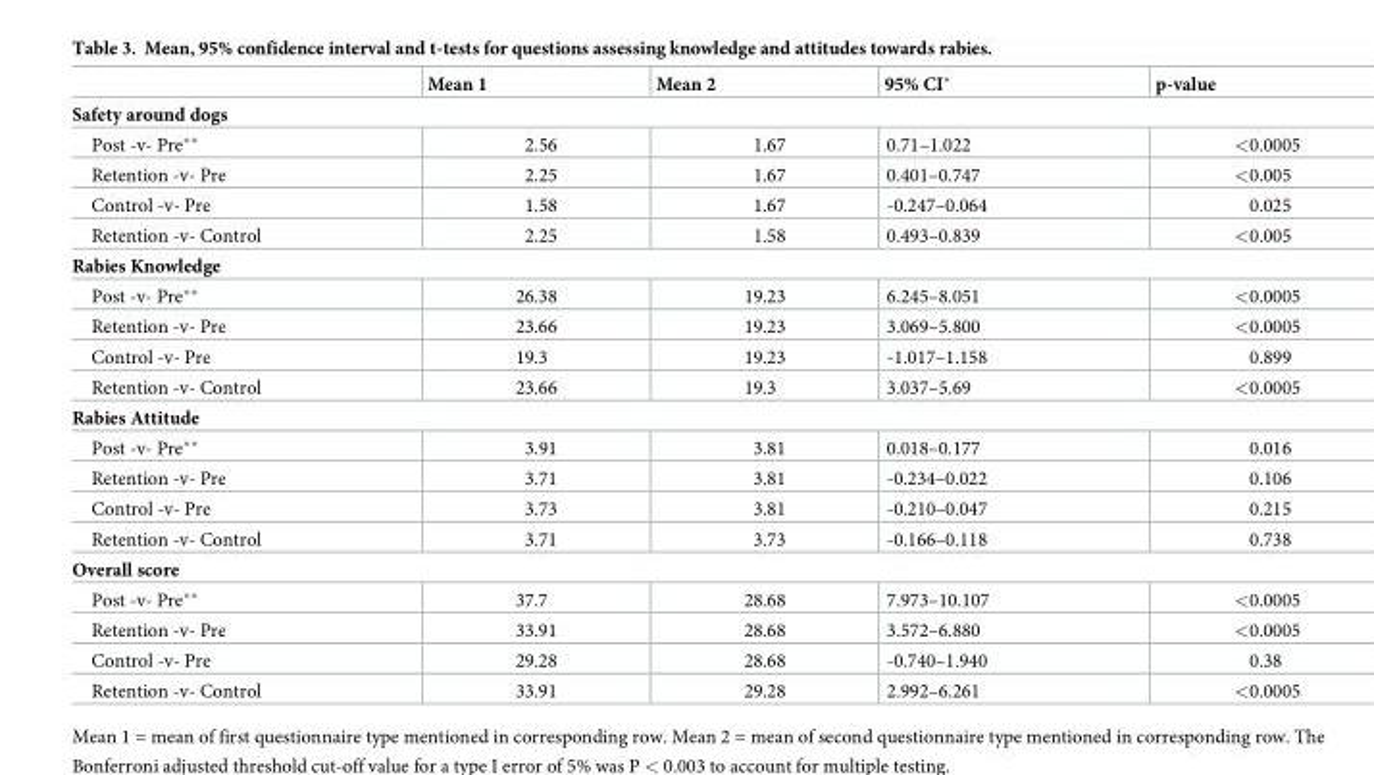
<table><thead><tr><td></td><td>Mean 1</td><td>Mean 2</td><td>95% CI*</td><td>p-value</td></tr></thead><tbody><tr><td colspan="5">Safety around dogs</td></tr><tr><td>Post -v- Pre**</td><td>2.56</td><td>1.67</td><td>0.71–1.022</td><td>&lt;0.0005</td></tr><tr><td>Retention -v- Pre</td><td>2.25</td><td>1.67</td><td>0.401–0.747</td><td>&lt;0.005</td></tr><tr><td>Control -v- Pre</td><td>1.58</td><td>1.67</td><td>-0.247–0.064</td><td>0.025</td></tr><tr><td>Retention -v- Control</td><td>2.25</td><td>1.58</td><td>0.493–0.839</td><td>&lt;0.005</td></tr><tr><td colspan="5">Rabies Knowledge</td></tr><tr><td>Post -v- Pre**</td><td>26.38</td><td>19.23</td><td>6.245–8.051</td><td>&lt;0.0005</td></tr><tr><td>Retention -v- Pre</td><td>23.66</td><td>19.23</td><td>3.069–5.800</td><td>&lt;0.0005</td></tr><tr><td>Control -v- Pre</td><td>19.3</td><td>19.23</td><td>-1.017–1.158</td><td>0.899</td></tr><tr><td>Retention -v- Control</td><td>23.66</td><td>19.3</td><td>3.037–5.69</td><td>&lt;0.0005</td></tr><tr><td colspan="5">Rabies Attitude</td></tr><tr><td>Post -v- Pre**</td><td>3.91</td><td>3.81</td><td>0.018–0.177</td><td>0.016</td></tr><tr><td>Retention -v- Pre</td><td>3.71</td><td>3.81</td><td>-0.234–0.022</td><td>0.106</td></tr><tr><td>Control -v- Pre</td><td>3.73</td><td>3.81</td><td>-0.210–0.047</td><td>0.215</td></tr><tr><td>Retention -v- Control</td><td>3.71</td><td>3.73</td><td>-0.166–0.118</td><td>0.738</td></tr><tr><td colspan="5">Overall score</td></tr><tr><td>Post -v- Pre**</td><td>37.7</td><td>28.68</td><td>7.973–10.107</td><td>&lt;0.0005</td></tr><tr><td>Retention -v- Pre</td><td>33.91</td><td>28.68</td><td>3.572–6.880</td><td>&lt;0.0005</td></tr><tr><td>Control -v- Pre</td><td>29.28</td><td>28.68</td><td>-0.740–1.940</td><td>0.38</td></tr><tr><td>Retention -v- Control</td><td>33.91</td><td>29.28</td><td>2.992–6.261</td><td>&lt;0.0005</td></tr></tbody></table>